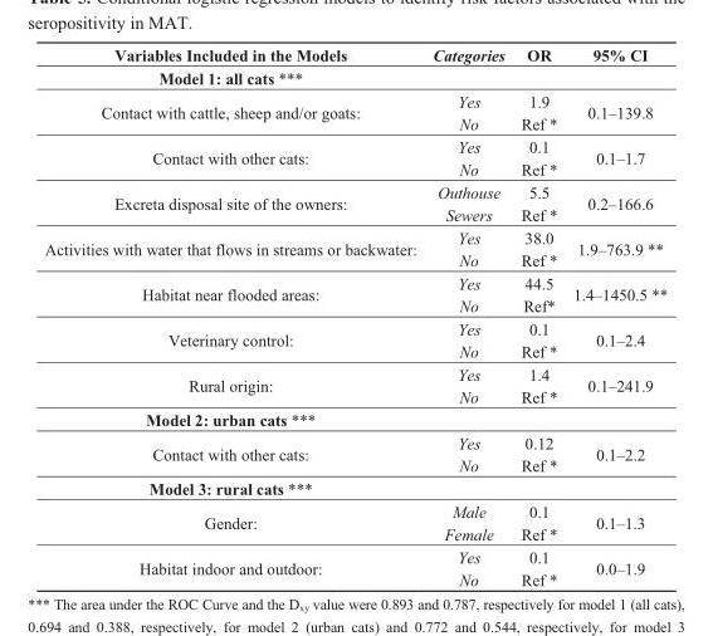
<table><thead><tr><td rowspan="2">Variables Included in the Models Model 1: all cats ***</td><td rowspan="2">Categories</td><td rowspan="2">OR</td><td rowspan="2">95% CI</td></tr><tr></tr></thead><tbody><tr><td rowspan="2">Contact with cattle, sheep and/or goats:</td><td>Yes</td><td>1.9</td><td rowspan="2">0.1–139.8</td></tr><tr><td>No</td><td>Ref *</td></tr><tr><td rowspan="2">Contact with other cats:</td><td>Yes</td><td>0.1</td><td rowspan="2">0.1–1.7</td></tr><tr><td>No</td><td>Ref *</td></tr><tr><td rowspan="2">Excreta disposal site of the owners:</td><td>Outhouse</td><td>5.5</td><td rowspan="2">0.2–166.6</td></tr><tr><td>Sewers</td><td>Ref *</td></tr><tr><td rowspan="2">Activities with water that flows in streams or backwater:</td><td>Yes</td><td>38.0</td><td rowspan="2">1.9–763.9 **</td></tr><tr><td>No</td><td>Ref *</td></tr><tr><td rowspan="2">Habitat near flooded areas:</td><td>Yes</td><td>44.5</td><td rowspan="2">1.4–1450.5 **</td></tr><tr><td>No</td><td>Ref*</td></tr><tr><td rowspan="2">Veterinary control:</td><td>Yes</td><td>0.1</td><td rowspan="2">0.1–2.4</td></tr><tr><td>No</td><td>Ref *</td></tr><tr><td rowspan="2">Rural origin:</td><td>Yes</td><td>1.4</td><td rowspan="2">0.1–241.9</td></tr><tr><td>No</td><td>Ref *</td></tr><tr><td colspan="4">Model 2: urban cats ***</td></tr><tr><td rowspan="2">Contact with other cats:</td><td>Yes</td><td>0.12</td><td rowspan="2">0.1–2.2</td></tr><tr><td>No</td><td>Ref *</td></tr><tr><td colspan="4">Model 3: rural cats ***</td></tr><tr><td rowspan="2">Gender:</td><td>Male</td><td>0.1</td><td rowspan="2">0.1–1.3</td></tr><tr><td>Female</td><td>Ref *</td></tr><tr><td rowspan="2">Habitat indoor and outdoor:</td><td>Yes</td><td>0.1</td><td rowspan="2">0.0–1.9</td></tr><tr><td>No</td><td>Ref *</td></tr></tbody></table>